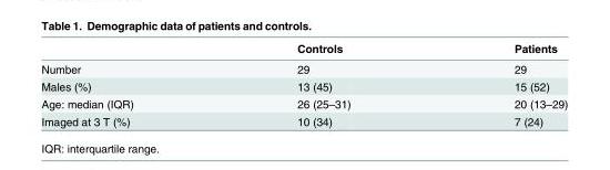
<table><thead><tr><td></td><td>Controls</td><td>Patients</td></tr></thead><tbody><tr><td>Number</td><td>29</td><td>29</td></tr><tr><td>Males (%)</td><td>13 (45)</td><td>15 (52)</td></tr><tr><td>Age: median (IQR)</td><td>26 (25–31)</td><td>20 (13–29)</td></tr><tr><td>Imaged at 3 T (%)</td><td>10 (34)</td><td>7 (24)</td></tr></tbody></table>